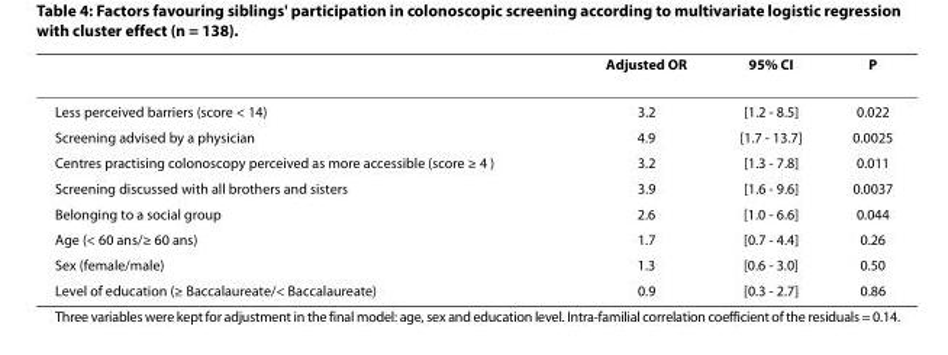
<table><thead><tr><td></td><td>Adjusted OR</td><td>95% CI</td><td>P</td></tr></thead><tbody><tr><td>Less perceived barriers (score &lt; 14)</td><td>3.2</td><td>[1.2 - 8.5]</td><td>0.022</td></tr><tr><td>Screening advised by a physician</td><td>4.9</td><td>[1.7 - 13.7]</td><td>0.0025</td></tr><tr><td>Centres practising colonoscopy perceived as more accessible (score ≥ 4 )</td><td>3.2</td><td>[1.3 - 7.8]</td><td>0.011</td></tr><tr><td>Screening discussed with all brothers and sisters</td><td>3.9</td><td>[1.6 - 9.6]</td><td>0.0037</td></tr><tr><td>Belonging to a social group</td><td>2.6</td><td>[1.0 - 6.6]</td><td>0.044</td></tr><tr><td>Age (&lt; 60 ans/≥ 60 ans)</td><td>1.7</td><td>[0.7 - 4.4]</td><td>0.26</td></tr><tr><td>Sex (female/male)</td><td>1.3</td><td>[0.6 - 3.0]</td><td>0.50</td></tr><tr><td>Level of education (≥ Baccalaureate/&lt; Baccalaureate)</td><td>0.9</td><td>[0.3 - 2.7]</td><td>0.86</td></tr></tbody></table>